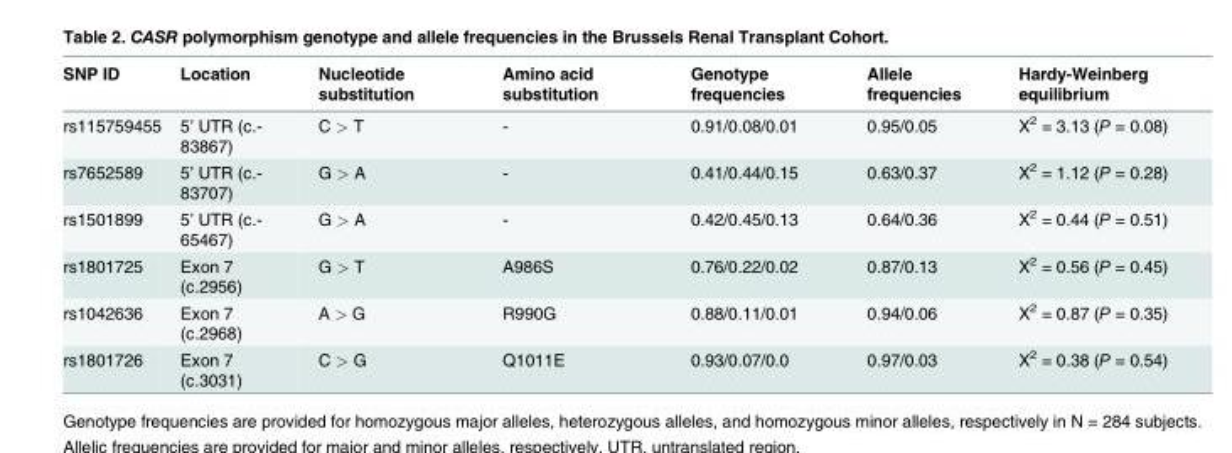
<table><thead><tr><td>SNP ID</td><td>Location</td><td>Nucleotide substitution</td><td>Amino acid substitution</td><td>Genotype frequencies</td><td>Allele frequencies</td><td>Hardy-Weinberg equilibrium</td></tr></thead><tbody><tr><td>rs115759455</td><td>5’ UTR (c.- 83867)</td><td>C &gt; T</td><td>-</td><td>0.91/0.08/0.01</td><td>0.95/0.05</td><td>X<sup>2</sup> = 3.13 (P = 0.08)</td></tr><tr><td>rs7652589</td><td>5’ UTR (c.- 83707)</td><td>G &gt; A</td><td>-</td><td>0.41/0.44/0.15</td><td>0.63/0.37</td><td>X<sup>2</sup> = 1.12 (P = 0.28)</td></tr><tr><td>rs1501899</td><td>5’ UTR (c.- 65467)</td><td>G &gt; A</td><td>-</td><td>0.42/0.45/0.13</td><td>0.64/0.36</td><td>X<sup>2</sup> = 0.44 (P = 0.51)</td></tr><tr><td>rs1801725</td><td>Exon 7 (c.2956)</td><td>G &gt; T</td><td>A986S</td><td>0.76/0.22/0.02</td><td>0.87/0.13</td><td>X<sup>2</sup> = 0.56 (P = 0.45)</td></tr><tr><td>rs1042636</td><td>Exon 7 (c.2968)</td><td>A &gt; G</td><td>R990G</td><td>0.88/0.11/0.01</td><td>0.94/0.06</td><td>X<sup>2</sup> = 0.87 (P = 0.35)</td></tr><tr><td>rs1801726</td><td>Exon 7 (c.3031)</td><td>C &gt; G</td><td>Q1011E</td><td>0.93/0.07/0.0</td><td>0.97/0.03</td><td>X<sup>2</sup> = 0.38 (P = 0.54)</td></tr></tbody></table>